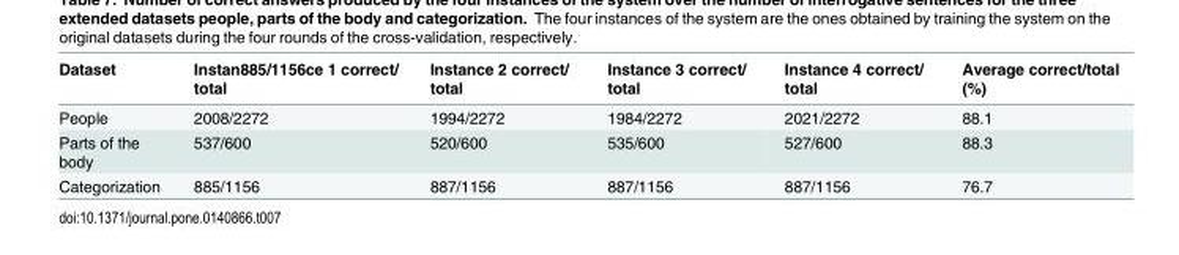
<table><thead><tr><td>Dataset</td><td>Instan885/1156ce 1 correct/ total</td><td>Instance 2 correct/ total</td><td>Instance 3 correct/ total</td><td>Instance 4 correct/ total</td><td>Average correct/total (%)</td></tr></thead><tbody><tr><td>People</td><td>2008/2272</td><td>1994/2272</td><td>1984/2272</td><td>2021/2272</td><td>88.1</td></tr><tr><td>Parts of the body</td><td>537/600</td><td>520/600</td><td>535/600</td><td>527/600</td><td>88.3</td></tr><tr><td>Categorization</td><td>885/1156</td><td>887/1156</td><td>887/1156</td><td>887/1156</td><td>76.7</td></tr></tbody></table>